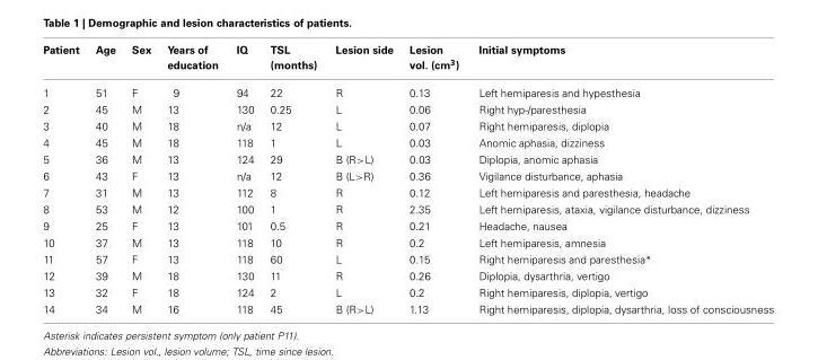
<table><thead><tr><td>Patient</td><td>Age</td><td>Sex</td><td>Years of education</td><td>IQ</td><td>TSL (months)</td><td>Lesion side</td><td>Lesion vol. (cm<sup>3</sup>)</td><td>Initial symptoms</td></tr></thead><tbody><tr><td>1</td><td>51</td><td>F</td><td>9</td><td>94</td><td>22</td><td>R</td><td>0.13</td><td>Left hemiparesis and hypesthesia</td></tr><tr><td>2</td><td>45</td><td>M</td><td>13</td><td>130</td><td>0.25</td><td>L</td><td>0.06</td><td>Right hyp-/paresthesia</td></tr><tr><td>3</td><td>40</td><td>M</td><td>18</td><td>n/a</td><td>12</td><td>L</td><td>0.07</td><td>Right hemiparesis, diplopia</td></tr><tr><td>4</td><td>45</td><td>M</td><td>18</td><td>118</td><td>1</td><td>L</td><td>0.03</td><td>Anomic aphasia, dizziness</td></tr><tr><td>5</td><td>36</td><td>M</td><td>13</td><td>124</td><td>29</td><td>B (R&gt;L)</td><td>0.03</td><td>Diplopia, anomic aphasia</td></tr><tr><td>6</td><td>43</td><td>F</td><td>13</td><td>n/a</td><td>12</td><td>B (L&gt;R)</td><td>0.36</td><td>Vigilance disturbance, aphasia</td></tr><tr><td>7</td><td>31</td><td>M</td><td>13</td><td>112</td><td>8</td><td>R</td><td>0.12</td><td>Left hemiparesis and paresthesia, headache</td></tr><tr><td>8</td><td>53</td><td>M</td><td>12</td><td>100</td><td>1</td><td>R</td><td>2.35</td><td>Left hemiparesis, ataxia, vigilance disturbance, dizziness</td></tr><tr><td>9</td><td>25</td><td>F</td><td>13</td><td>101</td><td>0.5</td><td>R</td><td>0.21</td><td>Headache, nausea</td></tr><tr><td>10</td><td>37</td><td>M</td><td>13</td><td>118</td><td>10</td><td>R</td><td>0.2</td><td>Left hemiparesis, amnesia</td></tr><tr><td>11</td><td>57</td><td>F</td><td>13</td><td>118</td><td>60</td><td>L</td><td>0.15</td><td>Right hemiparesis and paresthesia*</td></tr><tr><td>12</td><td>39</td><td>M</td><td>18</td><td>130</td><td>11</td><td>R</td><td>0.26</td><td>Diplopia, dysarthria, vertigo</td></tr><tr><td>13</td><td>32</td><td>F</td><td>18</td><td>124</td><td>2</td><td>L</td><td>0.2</td><td>Right hemiparesis, diplopia, vertigo</td></tr><tr><td>14</td><td>34</td><td>M</td><td>16</td><td>118</td><td>45</td><td>B (R&gt;L)</td><td>1.13</td><td>Right hemiparesis, diplopia, dysarthria, loss of consciousness</td></tr></tbody></table>